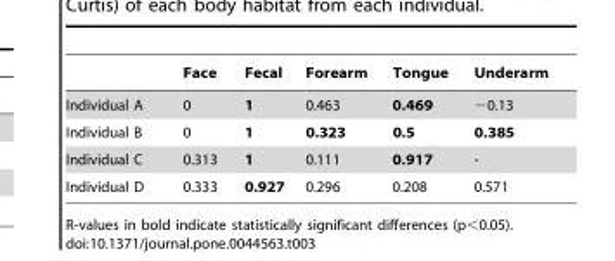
<table><thead><tr><td></td><td>Face</td><td>Fecal</td><td>Forearm</td><td>Tongue</td><td>Underarm</td></tr></thead><tbody><tr><td>Individual A</td><td>0</td><td>1</td><td>0.463</td><td>0.469</td><td>−0.13</td></tr><tr><td>Individual B</td><td>0</td><td>1</td><td>0.323</td><td>0.5</td><td>0.385</td></tr><tr><td>Individual C</td><td>0.313</td><td>1</td><td>0.111</td><td>0.917</td><td>-</td></tr><tr><td>Individual D</td><td>0.333</td><td>0.927</td><td>0.296</td><td>0.208</td><td>0.571</td></tr></tbody></table>